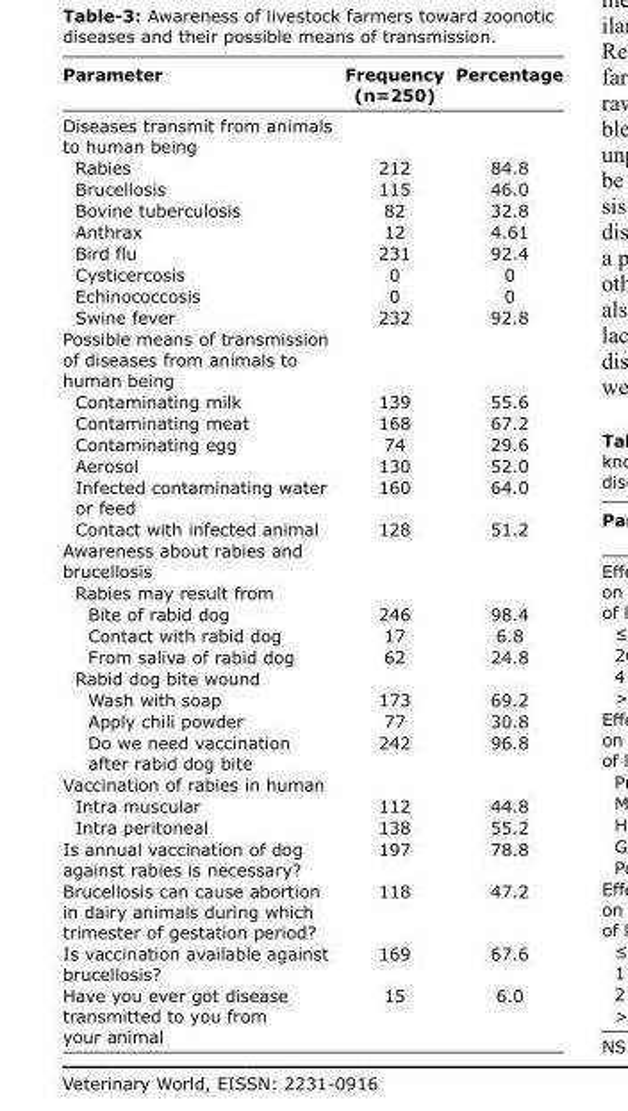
<table><thead><tr><td>Parameter</td><td>Frequency (n=250)</td><td>Percentage</td></tr></thead><tbody><tr><td colspan="3">Diseases transmit from animals to human being</td></tr><tr><td>Rabies</td><td>212</td><td>84.8</td></tr><tr><td>Brucellosis</td><td>115</td><td>46.0</td></tr><tr><td>Bovine tuberculosis</td><td>82</td><td>32.8</td></tr><tr><td>Anthrax</td><td>12</td><td>4.61</td></tr><tr><td>Bird flu</td><td>231</td><td>92.4</td></tr><tr><td>Cysticercosis</td><td>0</td><td>0</td></tr><tr><td>Echinococcosis</td><td>0</td><td>0</td></tr><tr><td>Swine fever</td><td>232</td><td>92.8</td></tr><tr><td colspan="3">Possible means of transmission of diseases from animals to human being</td></tr><tr><td>Contaminating milk</td><td>139</td><td>55.6</td></tr><tr><td>Contaminating meat</td><td>168</td><td>67.2</td></tr><tr><td>Contaminating egg</td><td>74</td><td>29.6</td></tr><tr><td>Aerosol</td><td>130</td><td>52.0</td></tr><tr><td>Infected contaminating water or feed</td><td>160</td><td>64.0</td></tr><tr><td>Contact with infected animal</td><td>128</td><td>51.2</td></tr><tr><td colspan="3">Awareness about rabies and brucellosis</td></tr><tr><td colspan="3">Rabies may result from</td></tr><tr><td>Bite of rabid dog</td><td>246</td><td>98.4</td></tr><tr><td>Contact with rabid dog</td><td>17</td><td>6.8</td></tr><tr><td>From saliva of rabid dog</td><td>62</td><td>24.8</td></tr><tr><td colspan="3">Rabid dog bite wound</td></tr><tr><td>Wash with soap</td><td>173</td><td>69.2</td></tr><tr><td>Apply chili powder</td><td>77</td><td>30.8</td></tr><tr><td>Do we need vaccination after rabid dog bite</td><td>242</td><td>96.8</td></tr><tr><td colspan="3">Vaccination of rabies in human</td></tr><tr><td>Intra muscular</td><td>112</td><td>44.8</td></tr><tr><td>Intra peritoneal</td><td>138</td><td>55.2</td></tr><tr><td>Is annual vaccination of dog against rabies is necessary?</td><td>197</td><td>78.8</td></tr><tr><td>Brucellosis can cause abortion in dairy animals during which trimester of gestation period?</td><td>118</td><td>47.2</td></tr><tr><td>Is vaccination available against brucellosis?</td><td>169</td><td>67.6</td></tr><tr><td>Have you ever got disease transmitted to you from your animal</td><td>15</td><td>6.0</td></tr></tbody></table>